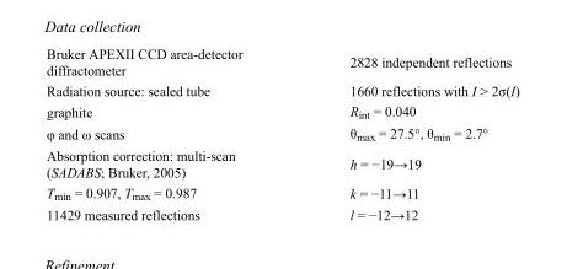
<table><tbody><tr><td>Bruker APEXII CCD area-detector diffractometer</td><td>2828 independent reflections</td></tr><tr><td>Radiation source: sealed tube</td><td>1660 reflections with I &gt; 2σ(I)</td></tr><tr><td>graphite</td><td>R<sub>int</sub> = 0.040</td></tr><tr><td>φ and ω scans</td><td>θ<sub>max</sub> = 27.5°, θ<sub>min</sub> = 2.7°</td></tr><tr><td>Absorption correction: multi-scan (SADABS; Bruker, 2005)</td><td>h = −19→19</td></tr><tr><td>T<sub>min</sub> = 0.907, T<sub>max</sub> = 0.987</td><td>k = −11→11</td></tr><tr><td>11429 measured reflections</td><td>l = −12→12</td></tr></tbody></table>